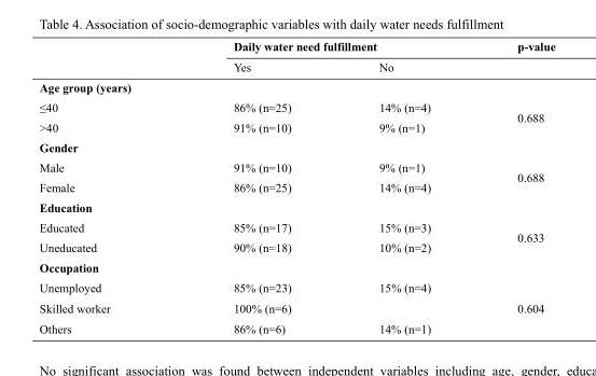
<table><thead><tr><td rowspan="2"></td><td colspan="2">Daily water need fulfillment</td><td rowspan="2">p-value</td></tr><tr><td>Yes</td><td>No</td></tr></thead><tbody><tr><td colspan="4">Age group (years)</td></tr><tr><td>≤40</td><td>86% (n=25)</td><td>14% (n=4)</td><td rowspan="2">0.688</td></tr><tr><td>&gt;40</td><td>91% (n=10)</td><td>9% (n=1)</td></tr><tr><td colspan="4">Gender</td></tr><tr><td>Male</td><td>91% (n=10)</td><td>9% (n=1)</td><td rowspan="2">0.688</td></tr><tr><td>Female</td><td>86% (n=25)</td><td>14% (n=4)</td></tr><tr><td colspan="4">Education</td></tr><tr><td>Educated</td><td>85% (n=17)</td><td>15% (n=3)</td><td rowspan="2">0.633</td></tr><tr><td>Uneducated</td><td>90% (n=18)</td><td>10% (n=2)</td></tr><tr><td colspan="4">Occupation</td></tr><tr><td>Unemployed</td><td>85% (n=23)</td><td>15% (n=4)</td><td rowspan="3">0.604</td></tr><tr><td>Skilled worker</td><td>100% (n=6)</td><td></td></tr><tr><td>Others</td><td>86% (n=6)</td><td>14% (n=1)</td></tr></tbody></table>